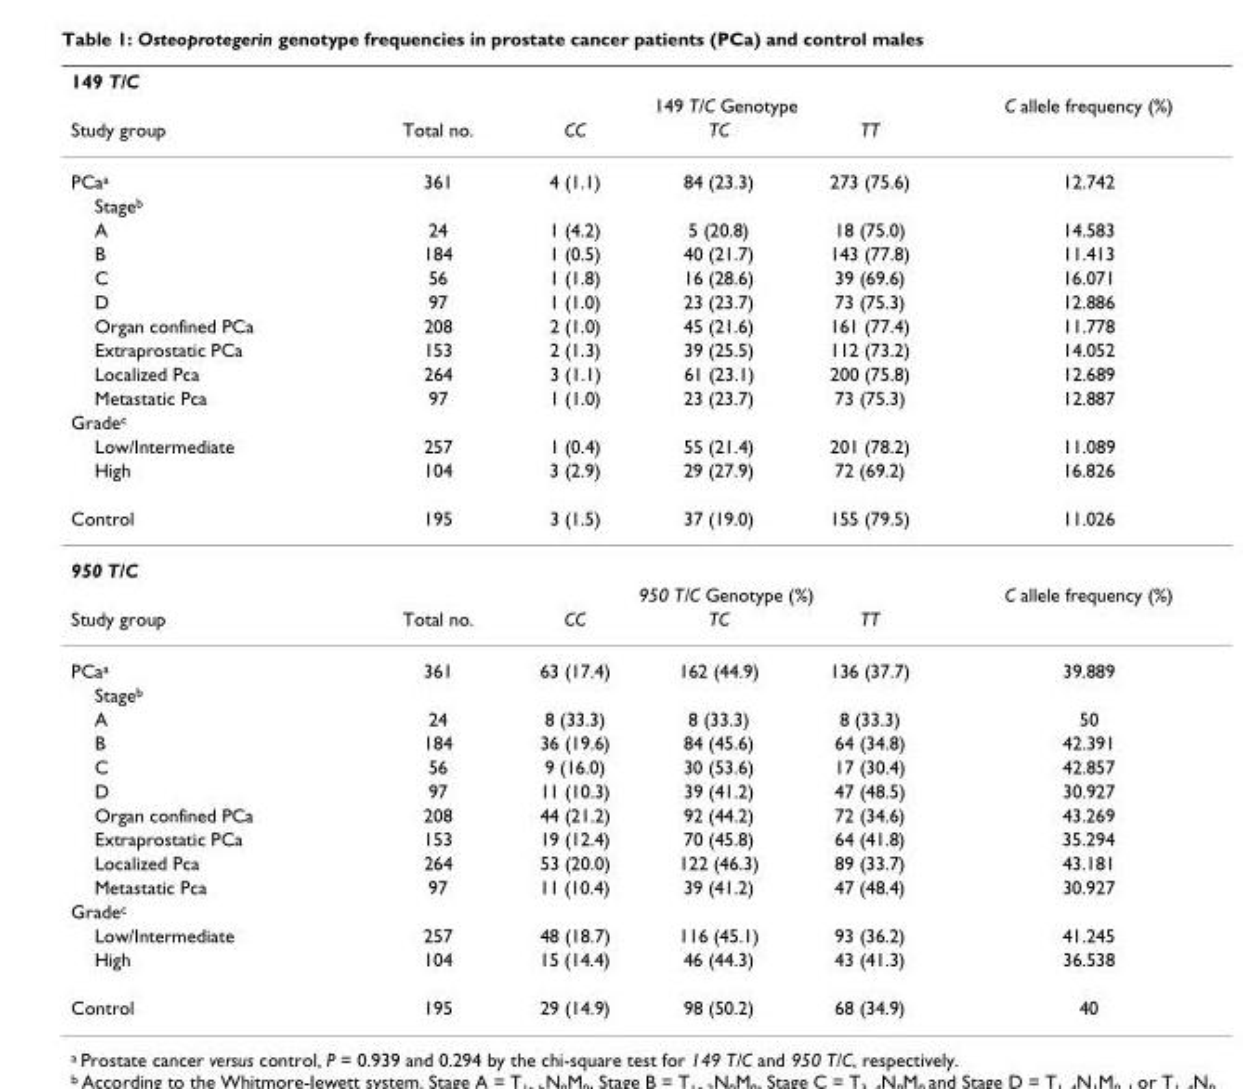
<table><thead><tr><td colspan="6">149 T/C</td></tr><tr><td rowspan="2">Study group</td><td rowspan="2">Total no.</td><td colspan="3">149 T/C Genotype</td><td rowspan="2">C allele frequency (%)</td></tr><tr><td>CC</td><td>TC</td><td>TT</td></tr></thead><tbody><tr><td>PCa<sup>a</sup></td><td>361</td><td>4 (1.1)</td><td>84 (23.3)</td><td>273 (75.6)</td><td>12.742</td></tr><tr><td colspan="6">Stage<sup>b</sup></td></tr><tr><td>A</td><td>24</td><td>1 (4.2)</td><td>5 (20.8)</td><td>18 (75.0)</td><td>14.583</td></tr><tr><td>B</td><td>184</td><td>1 (0.5)</td><td>40 (21.7)</td><td>143 (77.8)</td><td>11.413</td></tr><tr><td>C</td><td>56</td><td>1 (1.8)</td><td>16 (28.6)</td><td>39 (69.6)</td><td>16.071</td></tr><tr><td>D</td><td>97</td><td>1 (1.0)</td><td>23 (23.7)</td><td>73 (75.3)</td><td>12.886</td></tr><tr><td>Organ confined PCa</td><td>208</td><td>2 (1.0)</td><td>45 (21.6)</td><td>161 (77.4)</td><td>11.778</td></tr><tr><td>Extraprostatic PCa</td><td>153</td><td>2 (1.3)</td><td>39 (25.5)</td><td>112 (73.2)</td><td>14.052</td></tr><tr><td>Localized Pca</td><td>264</td><td>3 (1.1)</td><td>61 (23.1)</td><td>200 (75.8)</td><td>12.689</td></tr><tr><td>Metastatic Pca</td><td>97</td><td>1 (1.0)</td><td>23 (23.7)</td><td>73 (75.3)</td><td>12.887</td></tr><tr><td colspan="6">Grade<sup>c</sup></td></tr><tr><td>Low/Intermediate</td><td>257</td><td>1 (0.4)</td><td>55 (21.4)</td><td>201 (78.2)</td><td>11.089</td></tr><tr><td>High</td><td>104</td><td>3 (2.9)</td><td>29 (27.9)</td><td>72 (69.2)</td><td>16.826</td></tr><tr><td>Control</td><td>195</td><td>3 (1.5)</td><td>37 (19.0)</td><td>155 (79.5)</td><td>11.026</td></tr><tr><td colspan="6">950 T/C</td></tr><tr><td></td><td></td><td colspan="3">950 T/C Genotype (%)</td><td>C allele frequency (%)</td></tr><tr><td>Study group</td><td>Total no.</td><td>CC</td><td>TC</td><td>TT</td><td></td></tr><tr><td>PCa<sup>a</sup></td><td>361</td><td>63 (17.4)</td><td>162 (44.9)</td><td>136 (37.7)</td><td>39.889</td></tr><tr><td colspan="6">Stage<sup>b</sup></td></tr><tr><td>A</td><td>24</td><td>8 (33.3)</td><td>8 (33.3)</td><td>8 (33.3)</td><td>50</td></tr><tr><td>B</td><td>184</td><td>36 (19.6)</td><td>84 (45.6)</td><td>64 (34.8)</td><td>42.391</td></tr><tr><td>C</td><td>56</td><td>9 (16.0)</td><td>30 (53.6)</td><td>17 (30.4)</td><td>42.857</td></tr><tr><td>D</td><td>97</td><td>11 (10.3)</td><td>39 (41.2)</td><td>47 (48.5)</td><td>30.927</td></tr><tr><td>Organ confined PCa</td><td>208</td><td>44 (21.2)</td><td>92 (44.2)</td><td>72 (34.6)</td><td>43.269</td></tr><tr><td>Extraprostatic PCa</td><td>153</td><td>19 (12.4)</td><td>70 (45.8)</td><td>64 (41.8)</td><td>35.294</td></tr><tr><td>Localized Pca</td><td>264</td><td>53 (20.0)</td><td>122 (46.3)</td><td>89 (33.7)</td><td>43.181</td></tr><tr><td>Metastatic Pca</td><td>97</td><td>11 (10.4)</td><td>39 (41.2)</td><td>47 (48.4)</td><td>30.927</td></tr><tr><td colspan="6">Grade<sup>c</sup></td></tr><tr><td>Low/Intermediate</td><td>257</td><td>48 (18.7)</td><td>116 (45.1)</td><td>93 (36.2)</td><td>41.245</td></tr><tr><td>High</td><td>104</td><td>15 (14.4)</td><td>46 (44.3)</td><td>43 (41.3)</td><td>36.538</td></tr><tr><td>Control</td><td>195</td><td>29 (14.9)</td><td>98 (50.2)</td><td>68 (34.9)</td><td>40</td></tr></tbody></table>